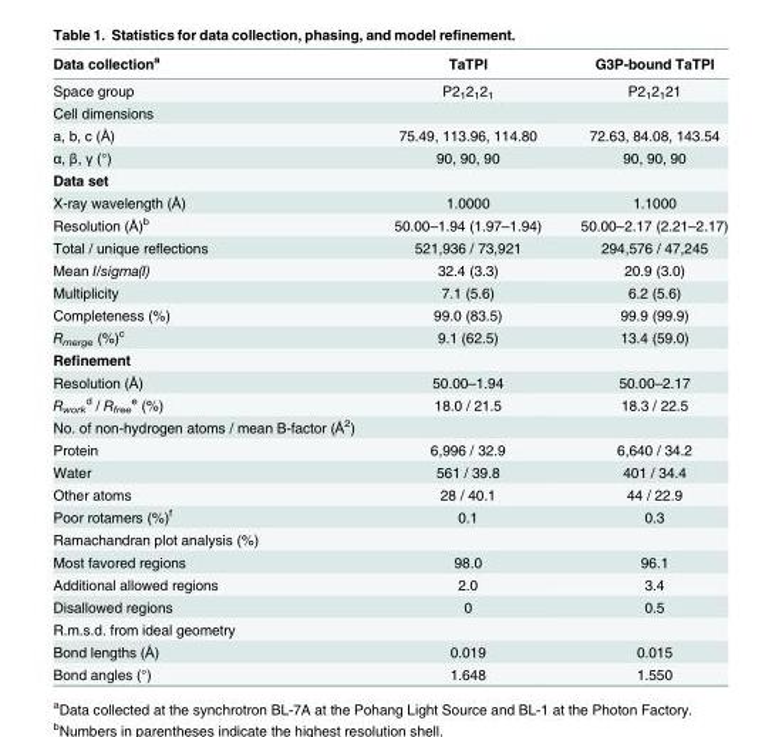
<table><thead><tr><td>Data collection<sup>a</sup></td><td>TaTPI</td><td>G3P-bound TaTPI</td></tr></thead><tbody><tr><td>Space group</td><td>P2<sub>1</sub>2<sub>1</sub>2<sub>1</sub></td><td>P2<sub>1</sub>2<sub>1</sub>21</td></tr><tr><td colspan="3">Cell dimensions</td></tr><tr><td>a, b, c (Å)</td><td>75.49, 113.96, 114.80</td><td>72.63, 84.08, 143.54</td></tr><tr><td>α, β, γ (°)</td><td>90, 90, 90</td><td>90, 90, 90</td></tr><tr><td colspan="3">Data set</td></tr><tr><td>X-ray wavelength (Å)</td><td>1.0000</td><td>1.1000</td></tr><tr><td>Resolution (Å)<sup>b</sup></td><td>50.00–1.94 (1.97–1.94)</td><td>50.00–2.17 (2.21–2.17)</td></tr><tr><td>Total / unique reflections</td><td>521,936 / 73,921</td><td>294,576 / 47,245</td></tr><tr><td>Mean I/sigma(I)</td><td>32.4 (3.3)</td><td>20.9 (3.0)</td></tr><tr><td>Multiplicity</td><td>7.1 (5.6)</td><td>6.2 (5.6)</td></tr><tr><td>Completeness (%)</td><td>99.0 (83.5)</td><td>99.9 (99.9)</td></tr><tr><td>R<sub>merge</sub> (%)<sup>c</sup></td><td>9.1 (62.5)</td><td>13.4 (59.0)</td></tr><tr><td colspan="3">Refinement</td></tr><tr><td>Resolution (Å)</td><td>50.00–1.94</td><td>50.00–2.17</td></tr><tr><td>R<sub>work</sub> <sup>d</sup> / R<sub>free</sub> <sup>e</sup> (%)</td><td>18.0 / 21.5</td><td>18.3 / 22.5</td></tr><tr><td colspan="3">No. of non-hydrogen atoms / mean B-factor (Å<sup>2</sup>)</td></tr><tr><td>Protein</td><td>6,996 / 32.9</td><td>6,640 / 34.2</td></tr><tr><td>Water</td><td>561 / 39.8</td><td>401 / 34.4</td></tr><tr><td>Other atoms</td><td>28 / 40.1</td><td>44 / 22.9</td></tr><tr><td>Poor rotamers (%)<sup>f</sup></td><td>0.1</td><td>0.3</td></tr><tr><td colspan="3">Ramachandran plot analysis (%)</td></tr><tr><td>Most favored regions</td><td>98.0</td><td>96.1</td></tr><tr><td>Additional allowed regions</td><td>2.0</td><td>3.4</td></tr><tr><td>Disallowed regions</td><td>0</td><td>0.5</td></tr><tr><td colspan="3">R.m.s.d. from ideal geometry</td></tr><tr><td>Bond lengths (Å)</td><td>0.019</td><td>0.015</td></tr><tr><td>Bond angles (°)</td><td>1.648</td><td>1.550</td></tr></tbody></table>